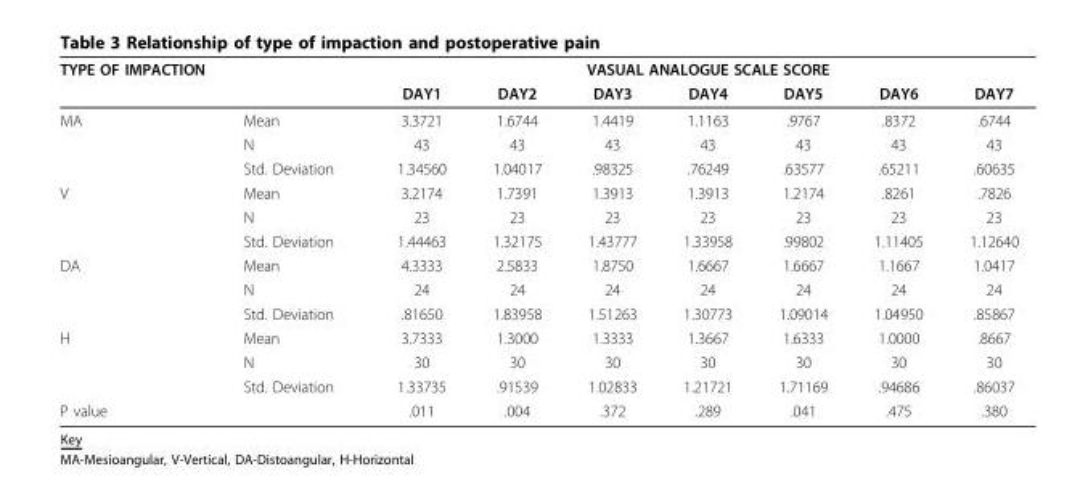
<table><thead><tr><td rowspan="2">TYPE OF IMPACTION</td><td rowspan="2"></td><td colspan="7">VASUAL ANALOGUE SCALE SCORE</td></tr><tr><td>DAY1</td><td>DAY2</td><td>DAY3</td><td>DAY4</td><td>DAY5</td><td>DAY6</td><td>DAY7</td></tr></thead><tbody><tr><td rowspan="3">MA</td><td>Mean</td><td>3.3721</td><td>1.6744</td><td>1.4419</td><td>1.1163</td><td>.9767</td><td>.8372</td><td>.6744</td></tr><tr><td>N</td><td>43</td><td>43</td><td>43</td><td>43</td><td>43</td><td>43</td><td>43</td></tr><tr><td>Std. Deviation</td><td>1.34560</td><td>1.04017</td><td>.98325</td><td>.76249</td><td>.63577</td><td>.65211</td><td>.60635</td></tr><tr><td rowspan="3">V</td><td>Mean</td><td>3.2174</td><td>1.7391</td><td>1.3913</td><td>1.3913</td><td>1.2174</td><td>.8261</td><td>.7826</td></tr><tr><td>N</td><td>23</td><td>23</td><td>23</td><td>23</td><td>23</td><td>23</td><td>23</td></tr><tr><td>Std. Deviation</td><td>1.44463</td><td>1.32175</td><td>1.43777</td><td>1.33958</td><td>.99802</td><td>1.11405</td><td>1.12640</td></tr><tr><td rowspan="3">DA</td><td>Mean</td><td>4.3333</td><td>2.5833</td><td>1.8750</td><td>1.6667</td><td>1.6667</td><td>1.1667</td><td>1.0417</td></tr><tr><td>N</td><td>24</td><td>24</td><td>24</td><td>24</td><td>24</td><td>24</td><td>24</td></tr><tr><td>Std. Deviation</td><td>.81650</td><td>1.83958</td><td>1.51263</td><td>1.30773</td><td>1.09014</td><td>1.04950</td><td>.85867</td></tr><tr><td rowspan="3">H</td><td>Mean</td><td>3.7333</td><td>1.3000</td><td>1.3333</td><td>1.3667</td><td>1.6333</td><td>1.0000</td><td>.8667</td></tr><tr><td>N</td><td>30</td><td>30</td><td>30</td><td>30</td><td>30</td><td>30</td><td>30</td></tr><tr><td>Std. Deviation</td><td>1.33735</td><td>.91539</td><td>1.02833</td><td>1.21721</td><td>1.71169</td><td>.94686</td><td>.86037</td></tr><tr><td>P value</td><td></td><td>.011</td><td>.004</td><td>.372</td><td>.289</td><td>.041</td><td>.475</td><td>.380</td></tr></tbody></table>